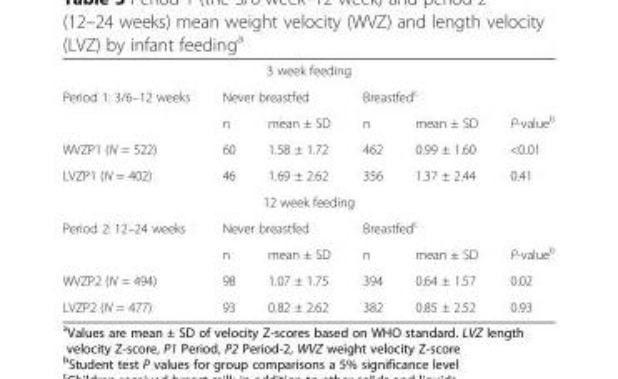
<table><tbody><tr><td colspan="6">3 week feeding</td></tr><tr><td rowspan="2">Period 1: 3/6–12 weeks</td><td colspan="2">Never breastfed</td><td colspan="3">Breastfed<sup>c</sup></td></tr><tr><td>n</td><td>mean ± SD</td><td>n</td><td>mean ± SD</td><td>P-value<sup>b</sup></td></tr><tr><td>WVZP1 (N = 522)</td><td>60</td><td>1.58 ± 1.72</td><td>462</td><td>0.99 ± 1.60</td><td>&lt;0.01</td></tr><tr><td>LVZP1 (N = 402)</td><td>46</td><td>1.69 ± 2.62</td><td>356</td><td>1.37 ± 2.44</td><td>0.41</td></tr><tr><td colspan="6">12 week feeding</td></tr><tr><td rowspan="2">Period 2: 12–24 weeks</td><td colspan="2">Never breastfed</td><td colspan="3">Breastfed<sup>c</sup></td></tr><tr><td>n</td><td>mean ± SD</td><td>n</td><td>mean ± SD</td><td>P-value<sup>b</sup></td></tr><tr><td>WVZP2 (N = 494)</td><td>98</td><td>1.07 ± 1.75</td><td>394</td><td>0.64 ± 1.57</td><td>0.02</td></tr><tr><td>LVZP2 (N = 477)</td><td>93</td><td>0.82 ± 2.62</td><td>382</td><td>0.85 ± 2.52</td><td>0.93</td></tr></tbody></table>